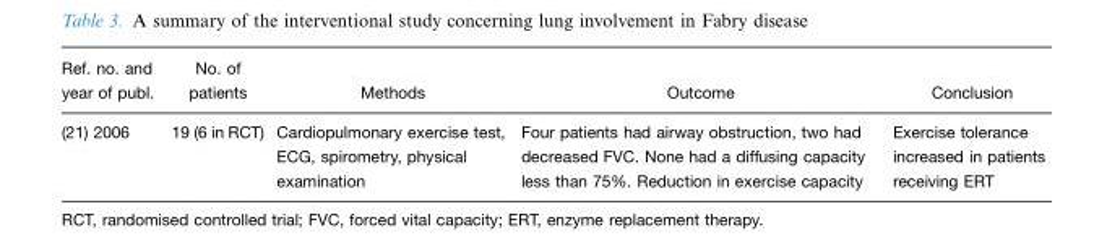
<table><thead><tr><td>Ref. no. and year of publ.</td><td>No. of patients</td><td>Methods</td><td>Outcome</td><td>Conclusion</td></tr></thead><tbody><tr><td>(21) 2006</td><td>19 (6 in RCT)</td><td>Cardiopulmonary exercise test, ECG, spirometry, physical examination</td><td>Four patients had airway obstruction, two had decreased FVC. None had a diffusing capacity less than 75%. Reduction in exercise capacity</td><td>Exercise tolerance increased in patients receiving ERT</td></tr></tbody></table>